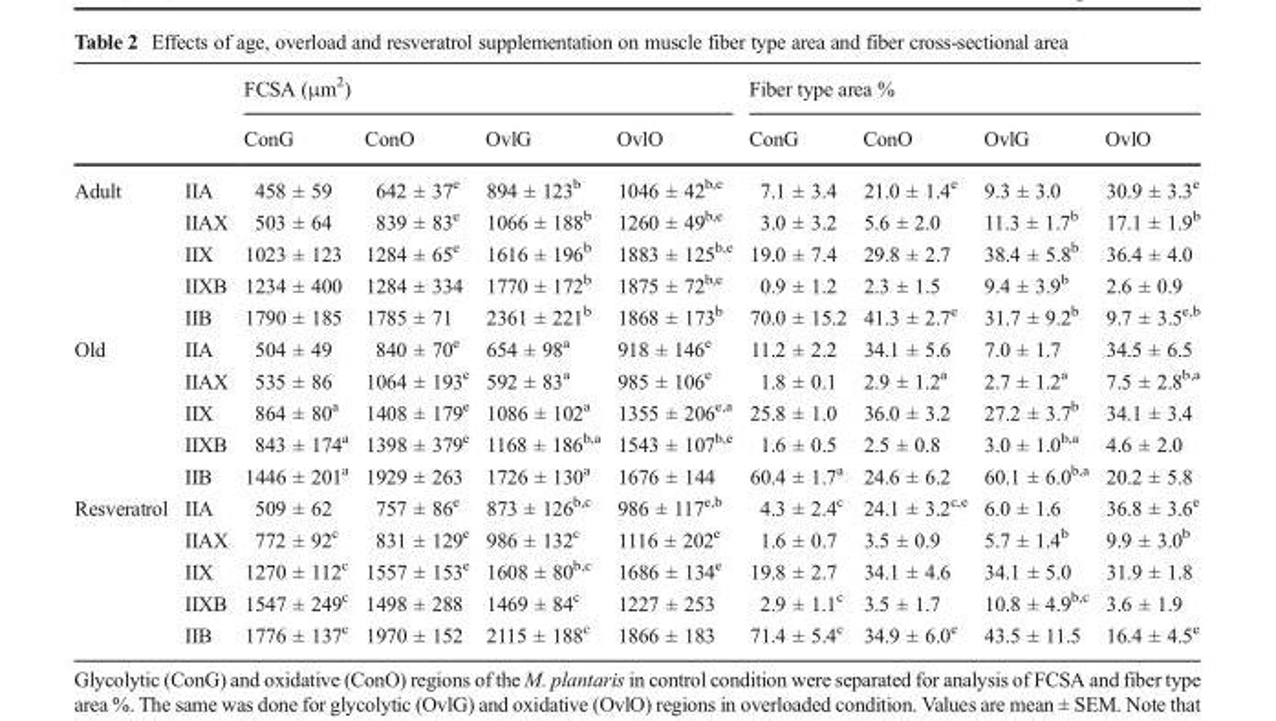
<table><thead><tr><td rowspan="2"></td><td rowspan="2"></td><td colspan="4">FCSA (μm<sup>2</sup>)</td><td colspan="4">Fiber type area %</td></tr><tr><td>ConG</td><td>ConO</td><td>OvlG</td><td>OvlO</td><td>ConG</td><td>ConO</td><td>OvlG</td><td>OvlO</td></tr></thead><tbody><tr><td rowspan="5">Adult</td><td>IIA</td><td>458 ± 59</td><td>642 ± 37<sup>e</sup></td><td>894 ± 123<sup>b</sup></td><td>1046 ± 42<sup>b,e</sup></td><td>7.1 ± 3.4</td><td>21.0 ± 1.4<sup>e</sup></td><td>9.3 ± 3.0</td><td>30.9 ± 3.3<sup>e</sup></td></tr><tr><td>IIAX</td><td>503 ± 64</td><td>839 ± 83<sup>e</sup></td><td>1066 ± 188<sup>b</sup></td><td>1260 ± 49<sup>b,e</sup></td><td>3.0 ± 3.2</td><td>5.6 ± 2.0</td><td>11.3 ± 1.7<sup>b</sup></td><td>17.1 ± 1.9<sup>b</sup></td></tr><tr><td>IIX</td><td>1023 ± 123</td><td>1284 ± 65<sup>e</sup></td><td>1616 ± 196<sup>b</sup></td><td>1883 ± 125<sup>b,e</sup></td><td>19.0 ± 7.4</td><td>29.8 ± 2.7</td><td>38.4 ± 5.8<sup>b</sup></td><td>36.4 ± 4.0</td></tr><tr><td>IIXB</td><td>1234 ± 400</td><td>1284 ± 334</td><td>1770 ± 172<sup>b</sup></td><td>1875 ± 72<sup>b,e</sup></td><td>0.9 ± 1.2</td><td>2.3 ± 1.5</td><td>9.4 ± 3.9<sup>b</sup></td><td>2.6 ± 0.9</td></tr><tr><td>IIB</td><td>1790 ± 185</td><td>1785 ± 71</td><td>2361 ± 221<sup>b</sup></td><td>1868 ± 173<sup>b</sup></td><td>70.0 ± 15.2</td><td>41.3 ± 2.7<sup>e</sup></td><td>31.7 ± 9.2<sup>b</sup></td><td>9.7 ± 3.5<sup>e,b</sup></td></tr><tr><td rowspan="5">Old</td><td>IIA</td><td>504 ± 49</td><td>840 ± 70<sup>e</sup></td><td>654 ± 98<sup>a</sup></td><td>918 ± 146<sup>e</sup></td><td>11.2 ± 2.2</td><td>34.1 ± 5.6</td><td>7.0 ± 1.7</td><td>34.5 ± 6.5</td></tr><tr><td>IIAX</td><td>535 ± 86</td><td>1064 ± 193<sup>e</sup></td><td>592 ± 83<sup>a</sup></td><td>985 ± 106<sup>e</sup></td><td>1.8 ± 0.1</td><td>2.9 ± 1.2<sup>a</sup></td><td>2.7 ± 1.2<sup>a</sup></td><td>7.5 ± 2.8<sup>b,a</sup></td></tr><tr><td>IIX</td><td>864 ± 80<sup>a</sup></td><td>1408 ± 179<sup>e</sup></td><td>1086 ± 102<sup>a</sup></td><td>1355 ± 206<sup>e,a</sup></td><td>25.8 ± 1.0</td><td>36.0 ± 3.2</td><td>27.2 ± 3.7<sup>b</sup></td><td>34.1 ± 3.4</td></tr><tr><td>IIXB</td><td>843 ± 174<sup>a</sup></td><td>1398 ± 379<sup>e</sup></td><td>1168 ± 186<sup>b,a</sup></td><td>1543 ± 107<sup>b,e</sup></td><td>1.6 ± 0.5</td><td>2.5 ± 0.8</td><td>3.0 ± 1.0<sup>b,a</sup></td><td>4.6 ± 2.0</td></tr><tr><td>IIB</td><td>1446 ± 201<sup>a</sup></td><td>1929 ± 263</td><td>1726 ± 130<sup>a</sup></td><td>1676 ± 144</td><td>60.4 ± 1.7<sup>a</sup></td><td>24.6 ± 6.2</td><td>60.1 ± 6.0<sup>b,a</sup></td><td>20.2 ± 5.8</td></tr><tr><td rowspan="5">Resveratrol</td><td>IIA</td><td>509 ± 62</td><td>757 ± 86<sup>e</sup></td><td>873 ± 126<sup>b,c</sup></td><td>986 ± 117<sup>e,b</sup></td><td>4.3 ± 2.4<sup>c</sup></td><td>24.1 ± 3.2<sup>c,e</sup></td><td>6.0 ± 1.6</td><td>36.8 ± 3.6<sup>e</sup></td></tr><tr><td>IIAX</td><td>772 ± 92<sup>c</sup></td><td>831 ± 129<sup>e</sup></td><td>986 ± 132<sup>c</sup></td><td>1116 ± 202<sup>e</sup></td><td>1.6 ± 0.7</td><td>3.5 ± 0.9</td><td>5.7 ± 1.4<sup>b</sup></td><td>9.9 ± 3.0<sup>b</sup></td></tr><tr><td>IIX</td><td>1270 ± 112<sup>c</sup></td><td>1557 ± 153<sup>e</sup></td><td>1608 ± 80<sup>b,c</sup></td><td>1686 ± 134<sup>e</sup></td><td>19.8 ± 2.7</td><td>34.1 ± 4.6</td><td>34.1 ± 5.0</td><td>31.9 ± 1.8</td></tr><tr><td>IIXB</td><td>1547 ± 249<sup>c</sup></td><td>1498 ± 288</td><td>1469 ± 84<sup>c</sup></td><td>1227 ± 253</td><td>2.9 ± 1.1<sup>c</sup></td><td>3.5 ± 1.7</td><td>10.8 ± 4.9<sup>b,c</sup></td><td>3.6 ± 1.9</td></tr><tr><td>IIB</td><td>1776 ± 137<sup>c</sup></td><td>1970 ± 152</td><td>2115 ± 188<sup>c</sup></td><td>1866 ± 183</td><td>71.4 ± 5.4<sup>c</sup></td><td>34.9 ± 6.0<sup>e</sup></td><td>43.5 ± 11.5</td><td>16.4 ± 4.5<sup>e</sup></td></tr></tbody></table>